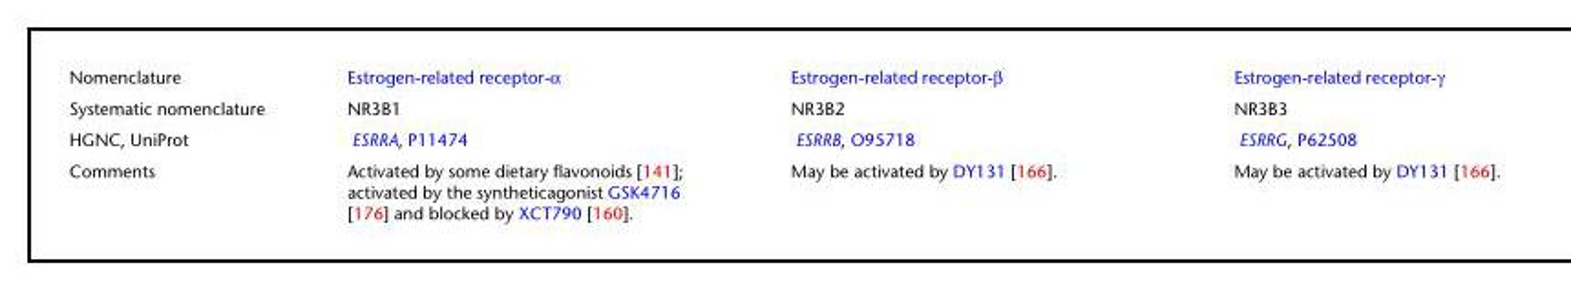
<table><tbody><tr><td>Nomenclature</td><td>Estrogen-related receptor-α</td><td>Estrogen-related receptor-β</td><td>Estrogen-related receptor-γ</td></tr><tr><td>Systematic nomenclature</td><td>NR3B1</td><td>NR3B2</td><td>NR3B3</td></tr><tr><td>HGNC, UniProt</td><td>ESRRA, P11474</td><td>ESRRB, O95718</td><td>ESRRG, P62508</td></tr><tr><td>Comments</td><td>Activated by some dietary flavonoids [141]; activated by the syntheticagonist GSK4716 [176] and blocked by XCT790 [160].</td><td>May be activated by DY131 [166].</td><td>May be activated by DY131 [166].</td></tr></tbody></table>